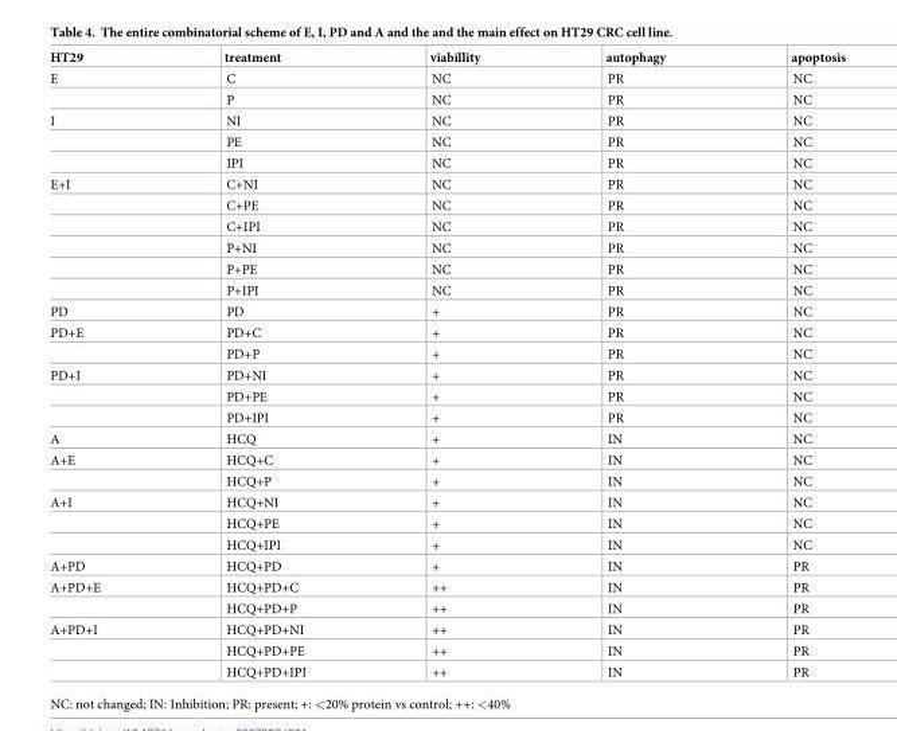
<table><thead><tr><td>HT29</td><td>treatment</td><td>viabillity</td><td>autophagy</td><td>apoptosis</td></tr></thead><tbody><tr><td rowspan="2">E</td><td>C</td><td>NC</td><td>PR</td><td>NC</td></tr><tr><td>P</td><td>NC</td><td>PR</td><td>NC</td></tr><tr><td rowspan="3">I</td><td>NI</td><td>NC</td><td>PR</td><td>NC</td></tr><tr><td>PE</td><td>NC</td><td>PR</td><td>NC</td></tr><tr><td>IPI</td><td>NC</td><td>PR</td><td>NC</td></tr><tr><td rowspan="6">E+I</td><td>C+NI</td><td>NC</td><td>PR</td><td>NC</td></tr><tr><td>C+PE</td><td>NC</td><td>PR</td><td>NC</td></tr><tr><td>C+IPI</td><td>NC</td><td>PR</td><td>NC</td></tr><tr><td>P+NI</td><td>NC</td><td>PR</td><td>NC</td></tr><tr><td>P+PE</td><td>NC</td><td>PR</td><td>NC</td></tr><tr><td>P+IPI</td><td>NC</td><td>PR</td><td>NC</td></tr><tr><td>PD</td><td>PD</td><td>+</td><td>PR</td><td>NC</td></tr><tr><td rowspan="2">PD+E</td><td>PD+C</td><td>+</td><td>PR</td><td>NC</td></tr><tr><td>PD+P</td><td>+</td><td>PR</td><td>NC</td></tr><tr><td rowspan="3">PD+I</td><td>PD+NI</td><td>+</td><td>PR</td><td>NC</td></tr><tr><td>PD+PE</td><td>+</td><td>PR</td><td>NC</td></tr><tr><td>PD+IPI</td><td>+</td><td>PR</td><td>NC</td></tr><tr><td>A</td><td>HCQ</td><td>+</td><td>IN</td><td>NC</td></tr><tr><td rowspan="2">A+E</td><td>HCQ+C</td><td>+</td><td>IN</td><td>NC</td></tr><tr><td>HCQ+P</td><td>+</td><td>IN</td><td>NC</td></tr><tr><td rowspan="3">A+I</td><td>HCQ+NI</td><td>+</td><td>IN</td><td>NC</td></tr><tr><td>HCQ+PE</td><td>+</td><td>IN</td><td>NC</td></tr><tr><td>HCQ+IPI</td><td>+</td><td>IN</td><td>NC</td></tr><tr><td>A+PD</td><td>HCQ+PD</td><td>+</td><td>IN</td><td>PR</td></tr><tr><td rowspan="2">A+PD+E</td><td>HCQ+PD+C</td><td>++</td><td>IN</td><td>PR</td></tr><tr><td>HCQ+PD+P</td><td>++</td><td>IN</td><td>PR</td></tr><tr><td rowspan="3">A+PD+I</td><td>HCQ+PD+NI</td><td>++</td><td>IN</td><td>PR</td></tr><tr><td>HCQ+PD+PE</td><td>++</td><td>IN</td><td>PR</td></tr><tr><td>HCQ+PD+IPI</td><td>++</td><td>IN</td><td>PR</td></tr></tbody></table>